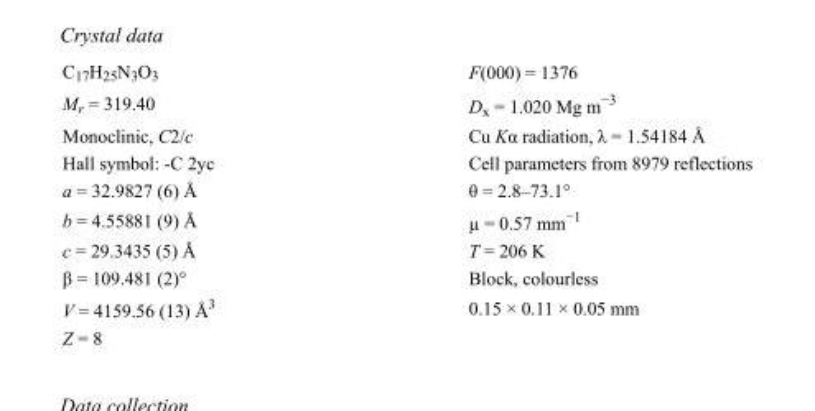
<table><tbody><tr><td>C<sub>17</sub>H<sub>25</sub>N<sub>3</sub>O<sub>3</sub></td><td>F(000) = 1376</td></tr><tr><td>M<sub>r</sub> = 319.40</td><td>D<sub>x</sub> = 1.020 Mg m<sup>−3</sup></td></tr><tr><td>Monoclinic, C2/c</td><td>Cu Kα radiation, λ = 1.54184 Å</td></tr><tr><td>Hall symbol: -C 2yc</td><td>Cell parameters from 8979 reflections</td></tr><tr><td>a = 32.9827 (6) Å</td><td>θ = 2.8–73.1°</td></tr><tr><td>b = 4.55881 (9) Å</td><td>µ = 0.57 mm<sup>−1</sup></td></tr><tr><td>c = 29.3435 (5) Å</td><td>T = 206 K</td></tr><tr><td>β = 109.481 (2)°</td><td>Block, colourless</td></tr><tr><td>V = 4159.56 (13) Å<sup>3</sup></td><td>0.15 × 0.11 × 0.05 mm</td></tr><tr><td>Z = 8</td><td></td></tr></tbody></table>